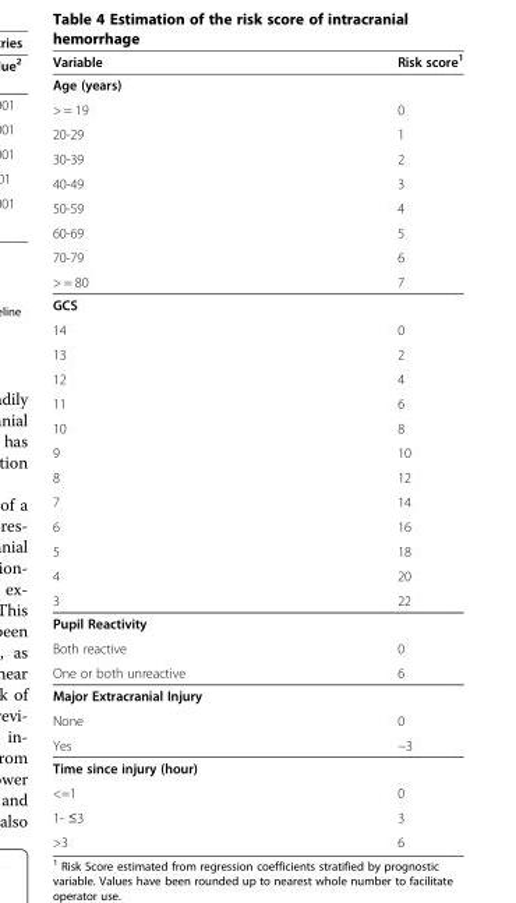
<table><thead><tr><td>Variable</td><td>Risk score<sup>1</sup></td></tr></thead><tbody><tr><td colspan="2">Age (years)</td></tr><tr><td>&gt; = 19</td><td>0</td></tr><tr><td>20-29</td><td>1</td></tr><tr><td>30-39</td><td>2</td></tr><tr><td>40-49</td><td>3</td></tr><tr><td>50-59</td><td>4</td></tr><tr><td>60-69</td><td>5</td></tr><tr><td>70-79</td><td>6</td></tr><tr><td>&gt; = 80</td><td>7</td></tr><tr><td colspan="2">GCS</td></tr><tr><td>14</td><td>0</td></tr><tr><td>13</td><td>2</td></tr><tr><td>12</td><td>4</td></tr><tr><td>11</td><td>6</td></tr><tr><td>10</td><td>8</td></tr><tr><td>9</td><td>10</td></tr><tr><td>8</td><td>12</td></tr><tr><td>7</td><td>14</td></tr><tr><td>6</td><td>16</td></tr><tr><td>5</td><td>18</td></tr><tr><td>4</td><td>20</td></tr><tr><td>3</td><td>22</td></tr><tr><td colspan="2">Pupil Reactivity</td></tr><tr><td>Both reactive</td><td>0</td></tr><tr><td>One or both unreactive</td><td>6</td></tr><tr><td colspan="2">Major Extracranial Injury</td></tr><tr><td>None</td><td>0</td></tr><tr><td>Yes</td><td>−3</td></tr><tr><td colspan="2">Time since injury (hour)</td></tr><tr><td>&lt;=1</td><td>0</td></tr><tr><td>1- ≤3</td><td>3</td></tr><tr><td>&gt;3</td><td>6</td></tr></tbody></table>